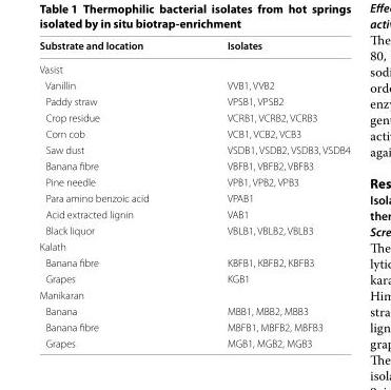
<table><thead><tr><td>Substrate and location</td><td>Isolates</td></tr></thead><tbody><tr><td colspan="2">Vasist</td></tr><tr><td>Vanillin</td><td>VVB1, VVB2</td></tr><tr><td>Paddy straw</td><td>VPSB1, VPSB2</td></tr><tr><td>Crop residue</td><td>VCRB1, VCRB2, VCRB3</td></tr><tr><td>Corn cob</td><td>VCB1, VCB2, VCB3</td></tr><tr><td>Saw dust</td><td>VSDB1, VSDB2, VSDB3, VSDB4</td></tr><tr><td>Banana fibre</td><td>VBFB1, VBFB2, VBFB3</td></tr><tr><td>Pine needle</td><td>VPB1, VPB2, VPB3</td></tr><tr><td>Para amino benzoic acid</td><td>VPAB1</td></tr><tr><td>Acid extracted lignin</td><td>VAB1</td></tr><tr><td>Black liquor</td><td>VBLB1, VBLB2, VBLB3</td></tr><tr><td colspan="2">Kalath</td></tr><tr><td>Banana fibre</td><td>KBFB1, KBFB2, KBFB3</td></tr><tr><td>Grapes</td><td>KGB1</td></tr><tr><td colspan="2">Manikaran</td></tr><tr><td>Banana</td><td>MBB1, MBB2, MBB3</td></tr><tr><td>Banana fibre</td><td>MBFB1, MBFB2, MBFB3</td></tr><tr><td>Grapes</td><td>MGB1, MGB2, MGB3</td></tr></tbody></table>